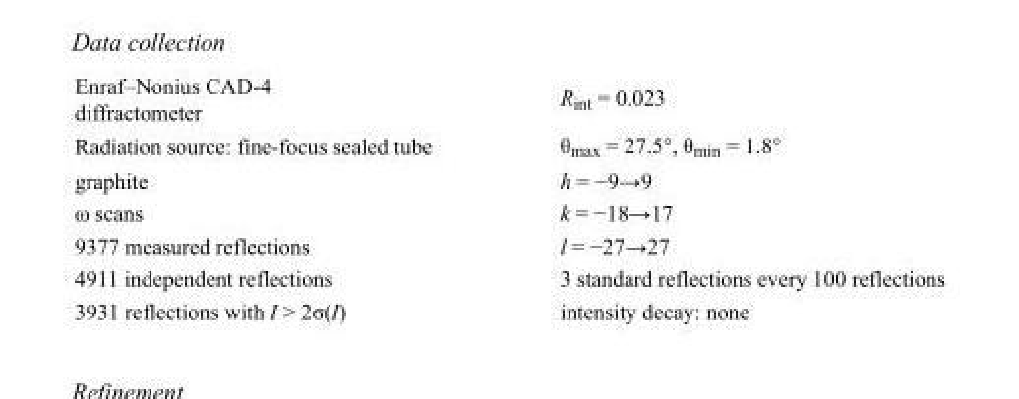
<table><tbody><tr><td>Enraf–Nonius CAD-4 diffractometer</td><td>R<sub>int</sub> = 0.023</td></tr><tr><td>Radiation source: fine-focus sealed tube</td><td>θ<sub>max</sub> = 27.5°, θ<sub>min</sub> = 1.8°</td></tr><tr><td>graphite</td><td>h = −9→9</td></tr><tr><td>ω scans</td><td>k = −18→17</td></tr><tr><td>9377 measured reflections</td><td>l = −27→27</td></tr><tr><td>4911 independent reflections</td><td>3 standard reflections every 100 reflections</td></tr><tr><td>3931 reflections with I &gt; 2σ(I)</td><td>intensity decay: none</td></tr></tbody></table>